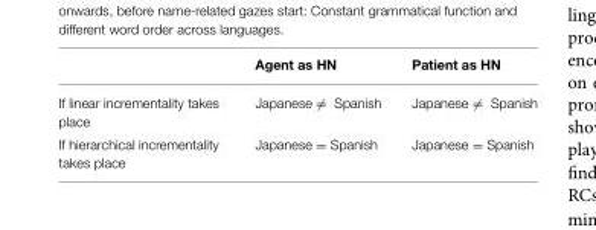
<table><thead><tr><td></td><td>Agent as HN</td><td>Patient as HN</td></tr></thead><tbody><tr><td>If linear incrementality takes place</td><td>Japanese ̸= Spanish</td><td>Japanese ̸= Spanish</td></tr><tr><td>If hierarchical incrementality takes place</td><td>Japanese = Spanish</td><td>Japanese = Spanish</td></tr></tbody></table>